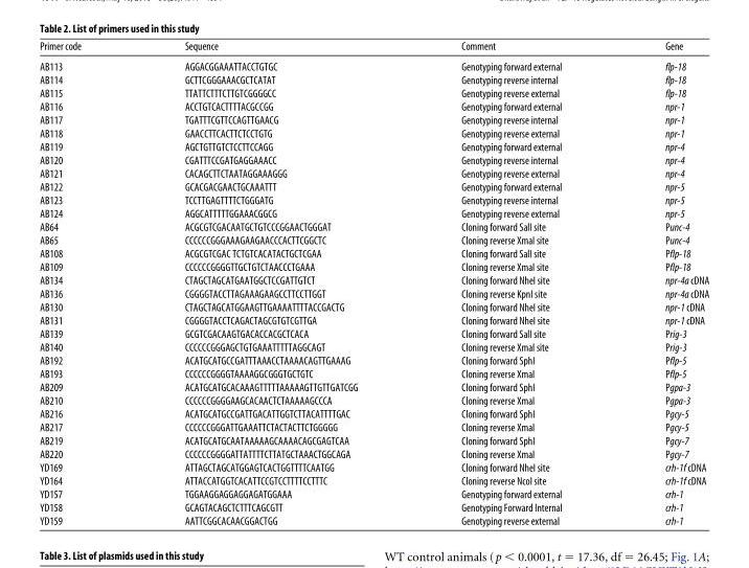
<table><thead><tr><td>Primer code</td><td>Sequence</td><td>Comment</td><td>Gene</td></tr></thead><tbody><tr><td>AB113</td><td>AGGACGGAAATTACCTGTGC</td><td>Genotyping forward external</td><td>flp-18</td></tr><tr><td>AB114</td><td>GCTTCGGGAAACGCTCATAT</td><td>Genotyping reverse internal</td><td>flp-18</td></tr><tr><td>AB115</td><td>TTATTCTTTCTTGTCGGGGCC</td><td>Genotyping reverse external</td><td>flp-18</td></tr><tr><td>AB116</td><td>ACCTGTCACTTTTACGCCGG</td><td>Genotyping forward external</td><td>npr-1</td></tr><tr><td>AB117</td><td>TGATTTCGTTCCAGTTGAACG</td><td>Genotyping reverse internal</td><td>npr-1</td></tr><tr><td>AB118</td><td>GAACCTTCACTTCTCCTGTG</td><td>Genotyping reverse external</td><td>npr-1</td></tr><tr><td>AB119</td><td>AGCTGTTGTCTCCTTCCAGG</td><td>Genotyping forward external</td><td>npr-4</td></tr><tr><td>AB120</td><td>CGATTTCCGATGAGGAAACC</td><td>Genotyping reverse internal</td><td>npr-4</td></tr><tr><td>AB121</td><td>CACAGCTTCTAATAGGAAAGGG</td><td>Genotyping reverse external</td><td>npr-4</td></tr><tr><td>AB122</td><td>GCACGACGAACTGCAAATTT</td><td>Genotyping forward external</td><td>npr-5</td></tr><tr><td>AB123</td><td>TCCTTGAGTTTTCTGGGATG</td><td>Genotyping reverse internal</td><td>npr-5</td></tr><tr><td>AB124</td><td>AGGCATTTTTGGAAACGGCG</td><td>Genotyping reverse external</td><td>npr-5</td></tr><tr><td>AB64</td><td>ACGCGTCGACAATGCTGTCCCGGAACTGGGAT</td><td>Cloning forward SalI site</td><td>Punc-4</td></tr><tr><td>AB65</td><td>CCCCCCGGGAAAGAAGAACCCACTTCGGCTC</td><td>Cloning reverse XmaI site</td><td>Punc-4</td></tr><tr><td>AB108</td><td>ACGCGTCGAC TCTGTCACATACTGCTCGAA</td><td>Cloning forward SalI site</td><td>Pflp-18</td></tr><tr><td>AB109</td><td>CCCCCCGGGGTTGCTGTCTAACCCTGAAA</td><td>Cloning reverse XmaI site</td><td>Pflp-18</td></tr><tr><td>AB134</td><td>CTAGCTAGCATGAATGGCTCCGATTGTCT</td><td>Cloning forward NheI site</td><td>npr-4acDNA</td></tr><tr><td>AB136</td><td>CGGGGTACCTTAGAAAGAAGCCTTCCTTGGT</td><td>Cloning reverse KpnI site</td><td>npr-4acDNA</td></tr><tr><td>AB130</td><td>CTAGCTAGCATGGAAGTTGAAAATTTTACCGACTG</td><td>Cloning forward NheI site</td><td>npr-1cDNA</td></tr><tr><td>AB131</td><td>CGGGGTACCTCAGACTAGCGTGTCGTTGA</td><td>Cloning forward NheI site</td><td>npr-1cDNA</td></tr><tr><td>AB139</td><td>GCGTCGACAAGTGACACCACGCTCACA</td><td>Cloning forward SalI site</td><td>Prig-3</td></tr><tr><td>AB140</td><td>CCCCCCGGGAGCTGTGAAATTTTTAGGCAGT</td><td>Cloning reverse XmaI site</td><td>Prig-3</td></tr><tr><td>AB192</td><td>ACATGCATGCCGATTTAAACCTAAAACAGTTGAAAG</td><td>Cloning forward SphI</td><td>Pflp-5</td></tr><tr><td>AB193</td><td>CCCCCCGGGGTAAAAGGCGGGTGCTGTC</td><td>Cloning reverse XmaI</td><td>Pflp-5</td></tr><tr><td>AB209</td><td>ACATGCATGCACAAAGTTTTTAAAAAGTTGTTGATCGG</td><td>Cloning forward SphI</td><td>Pgpa-3</td></tr><tr><td>AB210</td><td>CCCCCCGGGGAAGCACAACTCTAAAAAGCCCA</td><td>Cloning reverse XmaI</td><td>Pgpa-3</td></tr><tr><td>AB216</td><td>ACATGCATGCCGATTGACATTGGTCTTACATTTTGAC</td><td>Cloning forward SphI</td><td>Pgcy-5</td></tr><tr><td>AB217</td><td>CCCCCCGGGATTGAAATTCTACTACTTCTGGGGG</td><td>Cloning reverse XmaI</td><td>Pgcy-5</td></tr><tr><td>AB219</td><td>ACATGCATGCAATAAAAAGCAAAACAGCGAGTCAA</td><td>Cloning forward SphI</td><td>Pgcy-7</td></tr><tr><td>AB220</td><td>CCCCCCGGGGATTATTTTCTTATGCTAAACTGGCAGA</td><td>Cloning reverse XmaI</td><td>Pgcy-7</td></tr><tr><td>YD169</td><td>ATTAGCTAGCATGGAGTCACTGGTTTTCAATGG</td><td>Cloning forward NheI site</td><td>crh-1fcDNA</td></tr><tr><td>YD164</td><td>ATTACCATGGTCACATTCCGTCCTTTTCCTTTC</td><td>Cloning reverse NcoI site</td><td>crh-1fcDNA</td></tr><tr><td>YD157</td><td>TGGAAGGAGGAGGAGATGGAAA</td><td>Genotyping forward external</td><td>crh-1</td></tr><tr><td>YD158</td><td>GCAGTACAGCTCTTTCAGCGTT</td><td>Genotyping Forward Internal</td><td>crh-1</td></tr><tr><td>YD159</td><td>AATTCGGCACAACGGACTGG</td><td>Genotyping reverse external</td><td>crh-1</td></tr></tbody></table>